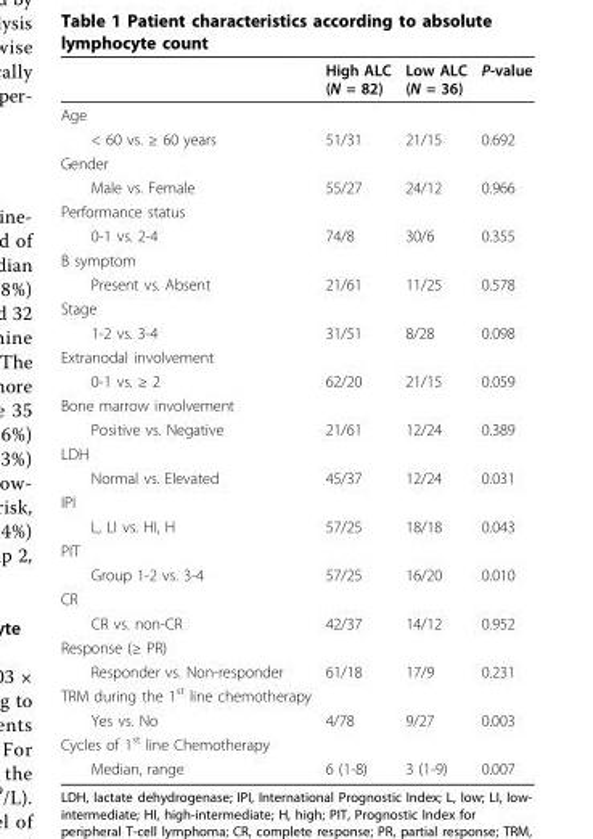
<table><thead><tr><td></td><td>High ALC (N = 82)</td><td>Low ALC (N = 36)</td><td>P-value</td></tr></thead><tbody><tr><td colspan="4">Age</td></tr><tr><td>&lt; 60 vs. ≥ 60 years</td><td>51/31</td><td>21/15</td><td>0.692</td></tr><tr><td colspan="4">Gender</td></tr><tr><td>Male vs. Female</td><td>55/27</td><td>24/12</td><td>0.966</td></tr><tr><td colspan="4">Performance status</td></tr><tr><td>0-1 vs. 2-4</td><td>74/8</td><td>30/6</td><td>0.355</td></tr><tr><td colspan="4">B symptom</td></tr><tr><td>Present vs. Absent</td><td>21/61</td><td>11/25</td><td>0.578</td></tr><tr><td colspan="4">Stage</td></tr><tr><td>1-2 vs. 3-4</td><td>31/51</td><td>8/28</td><td>0.098</td></tr><tr><td colspan="4">Extranodal involvement</td></tr><tr><td>0-1 vs. ≥ 2</td><td>62/20</td><td>21/15</td><td>0.059</td></tr><tr><td colspan="4">Bone marrow involvement</td></tr><tr><td>Positive vs. Negative</td><td>21/61</td><td>12/24</td><td>0.389</td></tr><tr><td colspan="4">LDH</td></tr><tr><td>Normal vs. Elevated</td><td>45/37</td><td>12/24</td><td>0.031</td></tr><tr><td colspan="4">IPI</td></tr><tr><td>L, LI vs. HI, H</td><td>57/25</td><td>18/18</td><td>0.043</td></tr><tr><td colspan="4">PIT</td></tr><tr><td>Group 1-2 vs. 3-4</td><td>57/25</td><td>16/20</td><td>0.010</td></tr><tr><td colspan="4">CR</td></tr><tr><td>CR vs. non-CR</td><td>42/37</td><td>14/12</td><td>0.952</td></tr><tr><td colspan="4">Response (≥ PR)</td></tr><tr><td>Responder vs. Non-responder</td><td>61/18</td><td>17/9</td><td>0.231</td></tr><tr><td colspan="4">TRM during the 1<sup>st</sup> line chemotherapy</td></tr><tr><td>Yes vs. No</td><td>4/78</td><td>9/27</td><td>0.003</td></tr><tr><td colspan="4">Cycles of 1<sup>st</sup> line Chemotherapy</td></tr><tr><td>Median, range</td><td>6 (1-8)</td><td>3 (1-9)</td><td>0.007</td></tr></tbody></table>